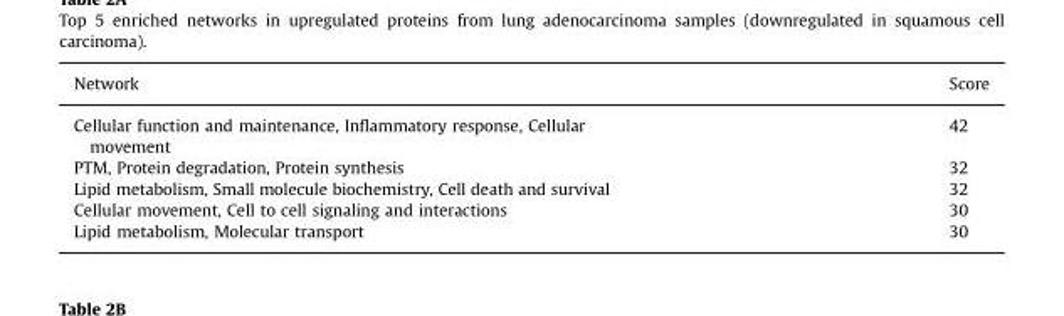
<table><thead><tr><td>Network</td><td>Score</td></tr></thead><tbody><tr><td>Cellular function and maintenance, Inflammatory response, Cellular movement</td><td>42</td></tr><tr><td>PTM, Protein degradation, Protein synthesis</td><td>32</td></tr><tr><td>Lipid metabolism, Small molecule biochemistry, Cell death and survival</td><td>32</td></tr><tr><td>Cellular movement, Cell to cell signaling and interactions</td><td>30</td></tr><tr><td>Lipid metabolism, Molecular transport</td><td>30</td></tr></tbody></table>